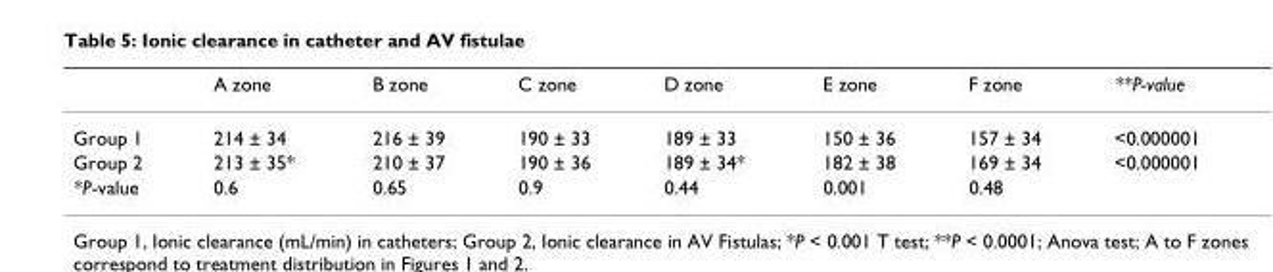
<table><thead><tr><td></td><td>A zone</td><td>B zone</td><td>C zone</td><td>D zone</td><td>E zone</td><td>F zone</td><td>**P-value</td></tr></thead><tbody><tr><td>Group 1</td><td>214 ± 34</td><td>216 ± 39</td><td>190 ± 33</td><td>189 ± 33</td><td>150 ± 36</td><td>157 ± 34</td><td>&lt;0.000001</td></tr><tr><td>Group 2</td><td>213 ± 35*</td><td>210 ± 37</td><td>190 ± 36</td><td>189 ± 34*</td><td>182 ± 38</td><td>169 ± 34</td><td>&lt;0.000001</td></tr><tr><td>*P-value</td><td>0.6</td><td>0.65</td><td>0.9</td><td>0.44</td><td>0.001</td><td>0.48</td><td></td></tr></tbody></table>